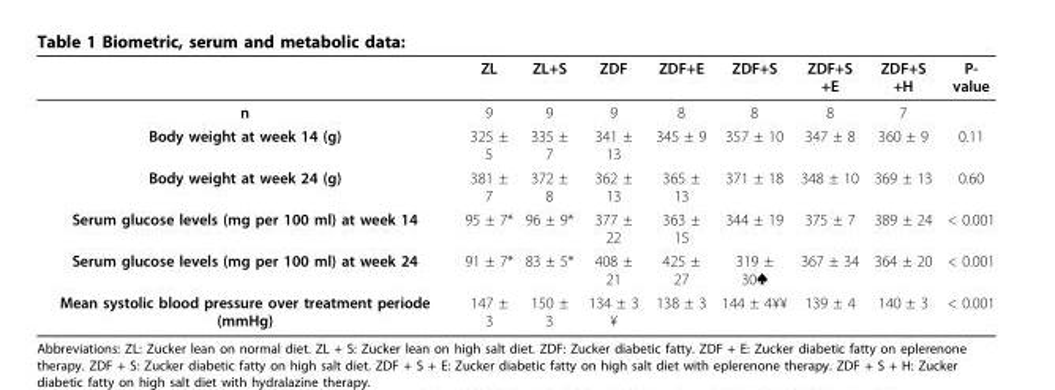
<table><thead><tr><td></td><td>ZL</td><td>ZL+S</td><td>ZDF</td><td>ZDF+E</td><td>ZDF+S</td><td>ZDF+S +E</td><td>ZDF+S +H</td><td>P- value</td></tr></thead><tbody><tr><td>n</td><td>9</td><td>9</td><td>9</td><td>8</td><td>8</td><td>8</td><td>7</td><td></td></tr><tr><td>Body weight at week 14 (g)</td><td>325 ± 5</td><td>335 ± 7</td><td>341 ± 13</td><td>345 ± 9</td><td>357 ± 10</td><td>347 ± 8</td><td>360 ± 9</td><td>0.11</td></tr><tr><td>Body weight at week 24 (g)</td><td>381 ± 7</td><td>372 ± 8</td><td>362 ± 13</td><td>365 ± 13</td><td>371 ± 18</td><td>348 ± 10</td><td>369 ± 13</td><td>0.60</td></tr><tr><td>Serum glucose levels (mg per 100 ml) at week 14</td><td>95 ± 7*</td><td>96 ± 9*</td><td>377 ± 22</td><td>363 ± 15</td><td>344 ± 19</td><td>375 ± 7</td><td>389 ± 24</td><td>&lt; 0.001</td></tr><tr><td>Serum glucose levels (mg per 100 ml) at week 24</td><td>91 ± 7*</td><td>83 ± 5*</td><td>408 ± 21</td><td>425 ± 27</td><td>319 ± 30♠</td><td>367 ± 34</td><td>364 ± 20</td><td>&lt; 0.001</td></tr><tr><td>Mean systolic blood pressure over treatment periode (mmHg)</td><td>147 ± 3</td><td>150 ± 3</td><td>134 ± 3 ¥</td><td>138 ± 3</td><td>144 ± 4¥¥</td><td>139 ± 4</td><td>140 ± 3</td><td>&lt; 0.001</td></tr></tbody></table>